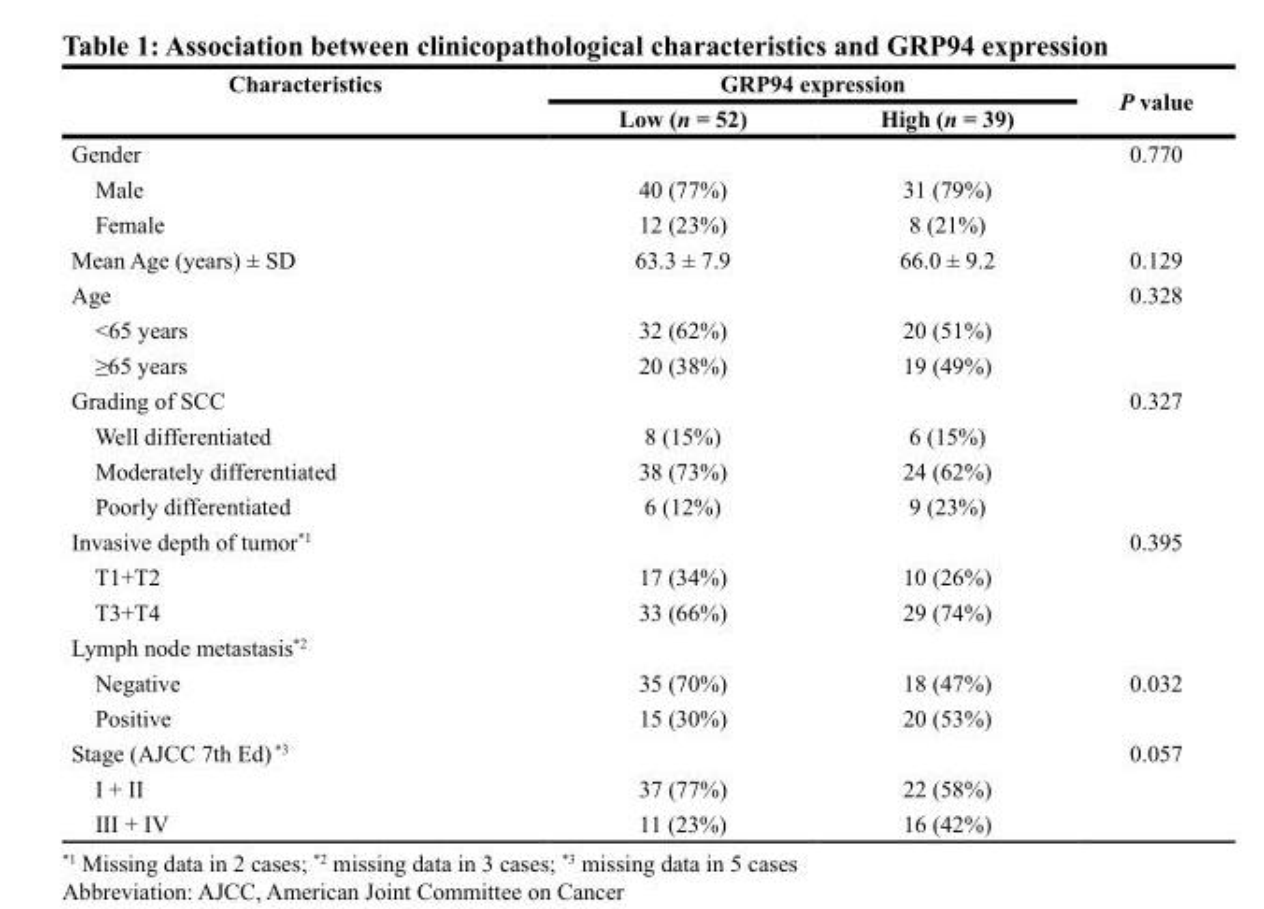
<table><thead><tr><td rowspan="2">Characteristics</td><td colspan="2">GRP94 expression</td><td rowspan="2">P value</td></tr><tr><td>Low (n = 52)</td><td>High (n = 39)</td></tr></thead><tbody><tr><td>Gender</td><td></td><td></td><td>0.770</td></tr><tr><td>Male</td><td>40 (77%)</td><td>31 (79%)</td><td></td></tr><tr><td>Female</td><td>12 (23%)</td><td>8 (21%)</td><td></td></tr><tr><td>Mean Age (years) ± SD</td><td>63.3 ± 7.9</td><td>66.0 ± 9.2</td><td>0.129</td></tr><tr><td>Age</td><td></td><td></td><td>0.328</td></tr><tr><td>&lt;65 years</td><td>32 (62%)</td><td>20 (51%)</td><td></td></tr><tr><td>≥65 years</td><td>20 (38%)</td><td>19 (49%)</td><td></td></tr><tr><td>Grading of SCC</td><td></td><td></td><td>0.327</td></tr><tr><td>Well differentiated</td><td>8 (15%)</td><td>6 (15%)</td><td></td></tr><tr><td>Moderately differentiated</td><td>38 (73%)</td><td>24 (62%)</td><td></td></tr><tr><td>Poorly differentiated</td><td>6 (12%)</td><td>9 (23%)</td><td></td></tr><tr><td>Invasive depth of tumor<sup>*1</sup></td><td></td><td></td><td>0.395</td></tr><tr><td>T1+T2</td><td>17 (34%)</td><td>10 (26%)</td><td></td></tr><tr><td>T3+T4</td><td>33 (66%)</td><td>29 (74%)</td><td></td></tr><tr><td colspan="4">Lymph node metastasis<sup>*2</sup></td></tr><tr><td>Negative</td><td>35 (70%)</td><td>18 (47%)</td><td>0.032</td></tr><tr><td>Positive</td><td>15 (30%)</td><td>20 (53%)</td><td></td></tr><tr><td>Stage (AJCC 7th Ed) <sup>*3</sup></td><td></td><td></td><td>0.057</td></tr><tr><td>I + II</td><td>37 (77%)</td><td>22 (58%)</td><td></td></tr><tr><td>III + IV</td><td>11 (23%)</td><td>16 (42%)</td><td></td></tr></tbody></table>